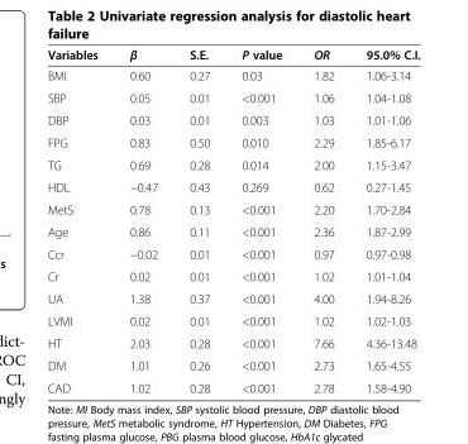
<table><thead><tr><td>Variables</td><td>β</td><td>S.E.</td><td>P value</td><td>OR</td><td>95.0% C.I.</td></tr></thead><tbody><tr><td>BMI</td><td>0.60</td><td>0.27</td><td>0.03</td><td>1.82</td><td>1.06-3.14</td></tr><tr><td>SBP</td><td>0.05</td><td>0.01</td><td>&lt;0.001</td><td>1.06</td><td>1.04-1.08</td></tr><tr><td>DBP</td><td>0.03</td><td>0.01</td><td>0.003</td><td>1.03</td><td>1.01-1.06</td></tr><tr><td>FPG</td><td>0.83</td><td>0.50</td><td>0.010</td><td>2.29</td><td>1.85-6.17</td></tr><tr><td>TG</td><td>0.69</td><td>0.28</td><td>0.014</td><td>2.00</td><td>1.15-3.47</td></tr><tr><td>HDL</td><td>−0.47</td><td>0.43</td><td>0.269</td><td>0.62</td><td>0.27-1.45</td></tr><tr><td>MetS</td><td>0.78</td><td>0.13</td><td>&lt;0.001</td><td>2.20</td><td>1.70-2.84</td></tr><tr><td>Age</td><td>0.86</td><td>0.11</td><td>&lt;0.001</td><td>2.36</td><td>1.87-2.99</td></tr><tr><td>Ccr</td><td>−0.02</td><td>0.01</td><td>&lt;0.001</td><td>0.97</td><td>0.97-0.98</td></tr><tr><td>Cr</td><td>0.02</td><td>0.01</td><td>&lt;0.001</td><td>1.02</td><td>1.01-1.04</td></tr><tr><td>UA</td><td>1.38</td><td>0.37</td><td>&lt;0.001</td><td>4.00</td><td>1.94-8.26</td></tr><tr><td>LVMI</td><td>0.02</td><td>0.01</td><td>&lt;0.001</td><td>1.02</td><td>1.02-1.03</td></tr><tr><td>HT</td><td>2.03</td><td>0.28</td><td>&lt;0.001</td><td>7.66</td><td>4.36-13.48</td></tr><tr><td>DM</td><td>1.01</td><td>0.26</td><td>&lt;0.001</td><td>2.73</td><td>1.65-4.55</td></tr><tr><td>CAD</td><td>1.02</td><td>0.28</td><td>&lt;0.001</td><td>2.78</td><td>1.58-4.90</td></tr></tbody></table>